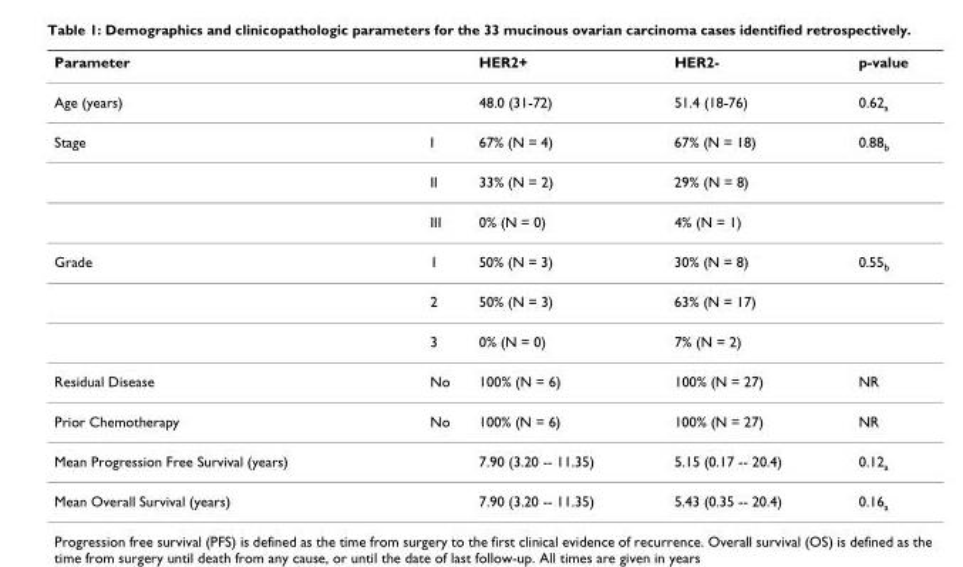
<table><thead><tr><td>Parameter</td><td></td><td>HER2+</td><td>HER2-</td><td>p-value</td></tr></thead><tbody><tr><td>Age (years)</td><td></td><td>48.0 (31-72)</td><td>51.4 (18-76)</td><td>0.62<sub>a</sub></td></tr><tr><td rowspan="3">Stage</td><td>I</td><td>67% (N = 4)</td><td>67% (N = 18)</td><td>0.88<sub>b</sub></td></tr><tr><td>II</td><td>33% (N = 2)</td><td>29% (N = 8)</td><td></td></tr><tr><td>III</td><td>0% (N = 0)</td><td>4% (N = 1)</td><td></td></tr><tr><td rowspan="3">Grade</td><td>1</td><td>50% (N = 3)</td><td>30% (N = 8)</td><td>0.55<sub>b</sub></td></tr><tr><td>2</td><td>50% (N = 3)</td><td>63% (N = 17)</td><td></td></tr><tr><td>3</td><td>0% (N = 0)</td><td>7% (N = 2)</td><td></td></tr><tr><td>Residual Disease</td><td>No</td><td>100% (N = 6)</td><td>100% (N = 27)</td><td>NR</td></tr><tr><td>Prior Chemotherapy</td><td>No</td><td>100% (N = 6)</td><td>100% (N = 27)</td><td>NR</td></tr><tr><td>Mean Progression Free Survival (years)</td><td></td><td>7.90 (3.20 -- 11.35)</td><td>5.15 (0.17 -- 20.4)</td><td>0.12<sub>a</sub></td></tr><tr><td>Mean Overall Survival (years)</td><td></td><td>7.90 (3.20 -- 11.35)</td><td>5.43 (0.35 -- 20.4)</td><td>0.16<sub>a</sub></td></tr></tbody></table>